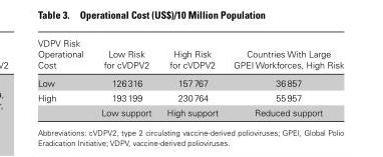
<table><thead><tr><td>VDPV Risk Operational Cost</td><td>Low Risk for cVDPV2</td><td>High Risk for cVDPV2</td><td>Countries With Large GPEI Workforces, High Risk</td></tr></thead><tbody><tr><td>Low</td><td>126 316</td><td>157 767</td><td>36 857</td></tr><tr><td rowspan="2">High</td><td>193 199</td><td>230 764</td><td>55 957</td></tr><tr><td>Low support</td><td>High support</td><td>Reduced support</td></tr></tbody></table>